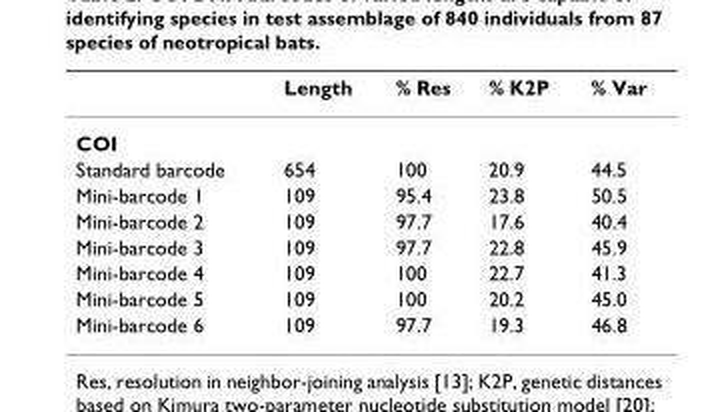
<table><thead><tr><td></td><td>Length</td><td>% Res</td><td>% K2P</td><td>% Var</td></tr></thead><tbody><tr><td colspan="5">COI</td></tr><tr><td>Standard barcode</td><td>654</td><td>100</td><td>20.9</td><td>44.5</td></tr><tr><td>Mini-barcode 1</td><td>109</td><td>95.4</td><td>23.8</td><td>50.5</td></tr><tr><td>Mini-barcode 2</td><td>109</td><td>97.7</td><td>17.6</td><td>40.4</td></tr><tr><td>Mini-barcode 3</td><td>109</td><td>97.7</td><td>22.8</td><td>45.9</td></tr><tr><td>Mini-barcode 4</td><td>109</td><td>100</td><td>22.7</td><td>41.3</td></tr><tr><td>Mini-barcode 5</td><td>109</td><td>100</td><td>20.2</td><td>45.0</td></tr><tr><td>Mini-barcode 6</td><td>109</td><td>97.7</td><td>19.3</td><td>46.8</td></tr></tbody></table>